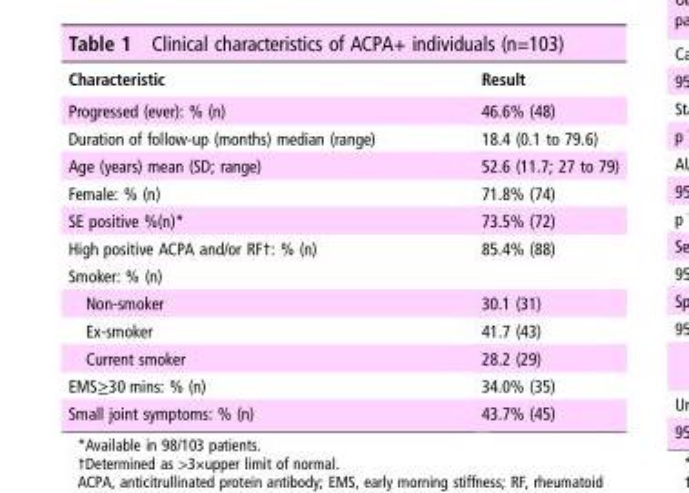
<table><thead><tr><td>Characteristic</td><td>Result</td></tr></thead><tbody><tr><td>Progressed (ever): % (n)</td><td>46.6% (48)</td></tr><tr><td>Duration of follow-up (months) median (range)</td><td>18.4 (0.1 to 79.6)</td></tr><tr><td>Age (years) mean (SD; range)</td><td>52.6 (11.7; 27 to 79)</td></tr><tr><td>Female: % (n)</td><td>71.8% (74)</td></tr><tr><td>SE positive %(n)*</td><td>73.5% (72)</td></tr><tr><td>High positive ACPA and/or RF†: % (n)</td><td>85.4% (88)</td></tr><tr><td colspan="2">Smoker: % (n)</td></tr><tr><td>Non-smoker</td><td>30.1 (31)</td></tr><tr><td>Ex-smoker</td><td>41.7 (43)</td></tr><tr><td>Current smoker</td><td>28.2 (29)</td></tr><tr><td>EMS≥30 mins: % (n)</td><td>34.0% (35)</td></tr><tr><td>Small joint symptoms: % (n)</td><td>43.7% (45)</td></tr></tbody></table>